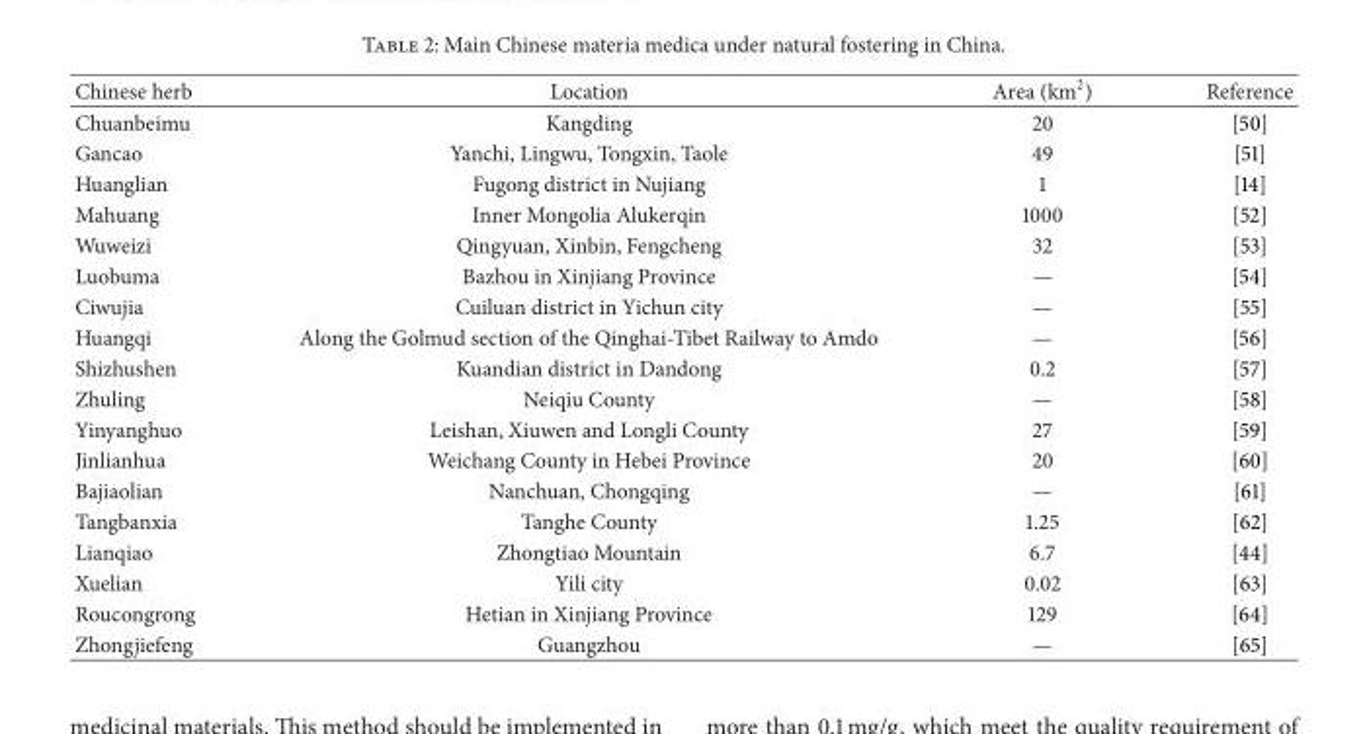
<table><thead><tr><td>Chinese herb</td><td>Location</td><td>Area (km<sup>2</sup>)</td><td>Reference</td></tr></thead><tbody><tr><td>Chuanbeimu</td><td>Kangding</td><td>20</td><td>[50]</td></tr><tr><td>Gancao</td><td>Yanchi, Lingwu, Tongxin, Taole</td><td>49</td><td>[51]</td></tr><tr><td>Huanglian</td><td>Fugong district in Nujiang</td><td>1</td><td>[14]</td></tr><tr><td>Mahuang</td><td>Inner Mongolia Alukerqin</td><td>1000</td><td>[52]</td></tr><tr><td>Wuweizi</td><td>Qingyuan, Xinbin, Fengcheng</td><td>32</td><td>[53]</td></tr><tr><td>Luobuma</td><td>Bazhou in Xinjiang Province</td><td>—</td><td>[54]</td></tr><tr><td>Ciwujia</td><td>Cuiluan district in Yichun city</td><td>—</td><td>[55]</td></tr><tr><td>Huangqi</td><td>Along the Golmud section of the Qinghai-Tibet Railway to Amdo</td><td>—</td><td>[56]</td></tr><tr><td>Shizhushen</td><td>Kuandian district in Dandong</td><td>0.2</td><td>[57]</td></tr><tr><td>Zhuling</td><td>Neiqiu County</td><td>—</td><td>[58]</td></tr><tr><td>Yinyanghuo</td><td>Leishan, Xiuwen and Longli County</td><td>27</td><td>[59]</td></tr><tr><td>Jinlianhua</td><td>Weichang County in Hebei Province</td><td>20</td><td>[60]</td></tr><tr><td>Bajiaolian</td><td>Nanchuan, Chongqing</td><td>—</td><td>[61]</td></tr><tr><td>Tangbanxia</td><td>Tanghe County</td><td>1.25</td><td>[62]</td></tr><tr><td>Lianqiao</td><td>Zhongtiao Mountain</td><td>6.7</td><td>[44]</td></tr><tr><td>Xuelian</td><td>Yili city</td><td>0.02</td><td>[63]</td></tr><tr><td>Roucongrong</td><td>Hetian in Xinjiang Province</td><td>129</td><td>[64]</td></tr><tr><td>Zhongjiefeng</td><td>Guangzhou</td><td>—</td><td>[65]</td></tr></tbody></table>